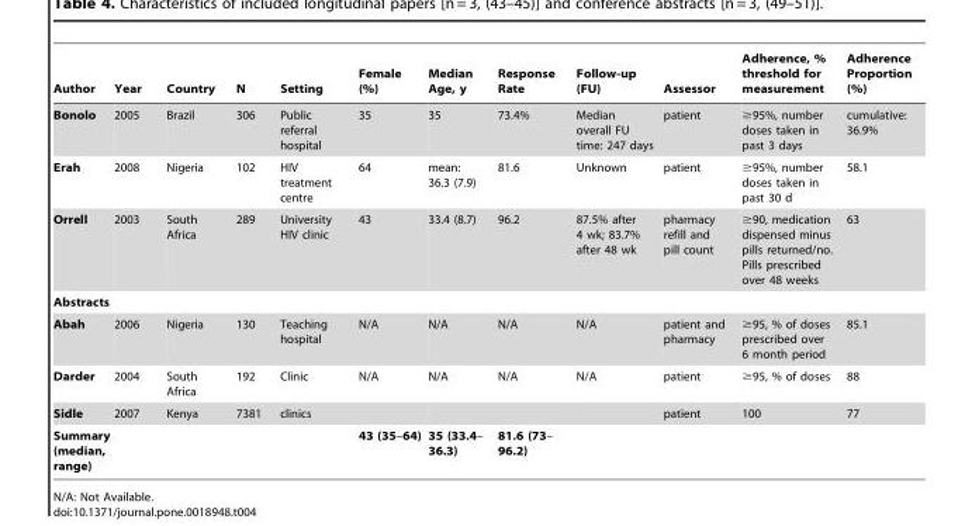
<table><thead><tr><td>Author</td><td>Year</td><td>Country</td><td>N</td><td>Setting</td><td>Female (%)</td><td>Median Age, y</td><td>Response Rate</td><td>Follow-up (FU)</td><td>Assessor</td><td>Adherence, % threshold for measurement</td><td>Adherence Proportion (%)</td></tr></thead><tbody><tr><td>Bonolo</td><td>2005</td><td>Brazil</td><td>306</td><td>Public referral hospital</td><td>35</td><td>35</td><td>73.4%</td><td>Median overall FU time: 247 days</td><td>patient</td><td>≥95%, number doses taken in past 3 days</td><td>cumulative: 36.9%</td></tr><tr><td>Erah</td><td>2008</td><td>Nigeria</td><td>102</td><td>HIV treatment centre</td><td>64</td><td>mean: 36.3 (7.9)</td><td>81.6</td><td>Unknown</td><td>patient</td><td>≥95%, number doses taken in past 30 d</td><td>58.1</td></tr><tr><td>Orrell</td><td>2003</td><td>South Africa</td><td>289</td><td>University HIV clinic</td><td>43</td><td>33.4 (8.7)</td><td>96.2</td><td>87.5% after 4 wk; 83.7% after 48 wk</td><td>pharmacy refill and pill count</td><td>≥90, medication dispensed minus pills returned/no. Pills prescribed over 48 weeks</td><td>63</td></tr><tr><td colspan="12">Abstracts</td></tr><tr><td>Abah</td><td>2006</td><td>Nigeria</td><td>130</td><td>Teaching hospital</td><td>N/A</td><td>N/A</td><td>N/A</td><td>N/A</td><td>patient and pharmacy</td><td>≥95, % of doses prescribed over 6 month period</td><td>85.1</td></tr><tr><td>Darder</td><td>2004</td><td>South Africa</td><td>192</td><td>Clinic</td><td>N/A</td><td>N/A</td><td>N/A</td><td>N/A</td><td>patient</td><td>≥95, % of doses</td><td>88</td></tr><tr><td>Sidle</td><td>2007</td><td>Kenya</td><td>7381</td><td>clinics</td><td></td><td></td><td></td><td></td><td>patient</td><td>100</td><td>77</td></tr><tr><td>Summary (median, range)</td><td></td><td></td><td></td><td></td><td>43 (35–64)</td><td>35 (33.4– 36.3)</td><td>81.6 (73– 96.2)</td><td></td><td></td><td></td><td></td></tr></tbody></table>